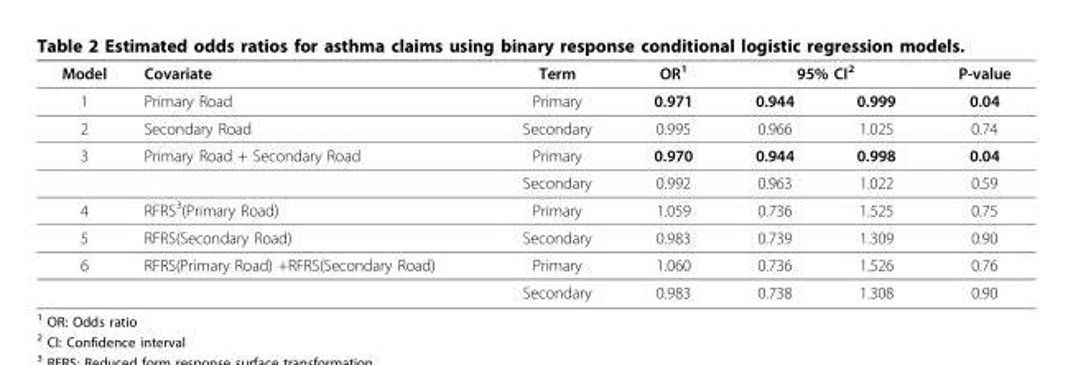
<table><thead><tr><td rowspan="2">Model 1</td><td rowspan="2">Covariate Primary Road</td><td rowspan="2">Term Primary</td><td rowspan="2">OR1 0.971</td><td colspan="2">95% CI2</td><td rowspan="2">P-value 0.04</td></tr><tr><td>0.944</td><td>0.999</td></tr></thead><tbody><tr><td>2</td><td>Secondary Road</td><td>Secondary</td><td>0.995</td><td>0.966</td><td>1.025</td><td>0.74</td></tr><tr><td rowspan="2">3</td><td>Primary Road + Secondary Road</td><td>Primary</td><td>0.970</td><td>0.944</td><td>0.998</td><td>0.04</td></tr><tr><td></td><td>Secondary</td><td>0.992</td><td>0.963</td><td>1.022</td><td>0.59</td></tr><tr><td>4</td><td>RFRS<sup>3</sup>(Primary Road)</td><td>Primary</td><td>1.059</td><td>0.736</td><td>1.525</td><td>0.75</td></tr><tr><td>5</td><td>RFRS(Secondary Road)</td><td>Secondary</td><td>0.983</td><td>0.739</td><td>1.309</td><td>0.90</td></tr><tr><td rowspan="2">6</td><td>RFRS(Primary Road) +RFRS(Secondary Road)</td><td>Primary</td><td>1.060</td><td>0.736</td><td>1.526</td><td>0.76</td></tr><tr><td></td><td>Secondary</td><td>0.983</td><td>0.738</td><td>1.308</td><td>0.90</td></tr></tbody></table>